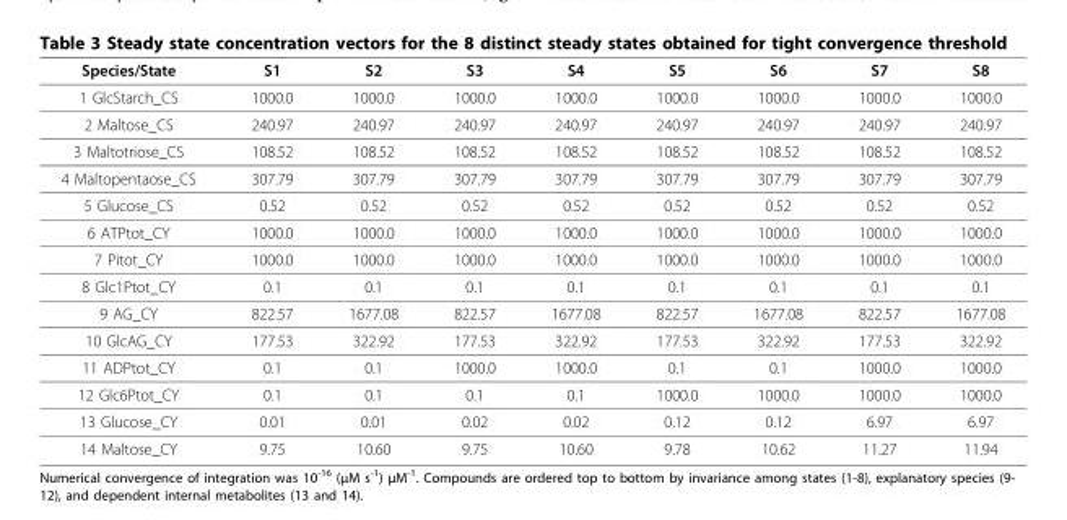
<table><thead><tr><td>Species/State</td><td>S1</td><td>S2</td><td>S3</td><td>S4</td><td>S5</td><td>S6</td><td>S7</td><td>S8</td></tr></thead><tbody><tr><td>1 GlcStarch_CS</td><td>1000.0</td><td>1000.0</td><td>1000.0</td><td>1000.0</td><td>1000.0</td><td>1000.0</td><td>1000.0</td><td>1000.0</td></tr><tr><td>2 Maltose_CS</td><td>240.97</td><td>240.97</td><td>240.97</td><td>240.97</td><td>240.97</td><td>240.97</td><td>240.97</td><td>240.97</td></tr><tr><td>3 Maltotriose_CS</td><td>108.52</td><td>108.52</td><td>108.52</td><td>108.52</td><td>108.52</td><td>108.52</td><td>108.52</td><td>108.52</td></tr><tr><td>4 Maltopentaose_CS</td><td>307.79</td><td>307.79</td><td>307.79</td><td>307.79</td><td>307.79</td><td>307.79</td><td>307.79</td><td>307.79</td></tr><tr><td>5 Glucose_CS</td><td>0.52</td><td>0.52</td><td>0.52</td><td>0.52</td><td>0.52</td><td>0.52</td><td>0.52</td><td>0.52</td></tr><tr><td>6 ATPtot_CY</td><td>1000.0</td><td>1000.0</td><td>1000.0</td><td>1000.0</td><td>1000.0</td><td>1000.0</td><td>1000.0</td><td>1000.0</td></tr><tr><td>7 Pitot_CY</td><td>1000.0</td><td>1000.0</td><td>1000.0</td><td>1000.0</td><td>1000.0</td><td>1000.0</td><td>1000.0</td><td>1000.0</td></tr><tr><td>8 Glc1Ptot_CY</td><td>0.1</td><td>0.1</td><td>0.1</td><td>0.1</td><td>0.1</td><td>0.1</td><td>0.1</td><td>0.1</td></tr><tr><td>9 AG_CY</td><td>822.57</td><td>1677.08</td><td>822.57</td><td>1677.08</td><td>822.57</td><td>1677.08</td><td>822.57</td><td>1677.08</td></tr><tr><td>10 GlcAG_CY</td><td>177.53</td><td>322.92</td><td>177.53</td><td>322.92</td><td>177.53</td><td>322.92</td><td>177.53</td><td>322.92</td></tr><tr><td>11 ADPtot_CY</td><td>0.1</td><td>0.1</td><td>1000.0</td><td>1000.0</td><td>0.1</td><td>0.1</td><td>1000.0</td><td>1000.0</td></tr><tr><td>12 Glc6Ptot_CY</td><td>0.1</td><td>0.1</td><td>0.1</td><td>0.1</td><td>1000.0</td><td>1000.0</td><td>1000.0</td><td>1000.0</td></tr><tr><td>13 Glucose_CY</td><td>0.01</td><td>0.01</td><td>0.02</td><td>0.02</td><td>0.12</td><td>0.12</td><td>6.97</td><td>6.97</td></tr><tr><td>14 Maltose_CY</td><td>9.75</td><td>10.60</td><td>9.75</td><td>10.60</td><td>9.78</td><td>10.62</td><td>11.27</td><td>11.94</td></tr></tbody></table>